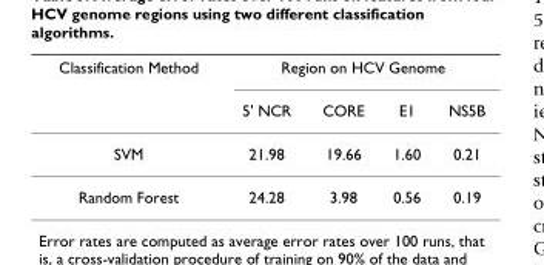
<table><thead><tr><td rowspan="2">Classification Method</td><td colspan="4">Region on HCV Genome</td></tr><tr><td>5&#x27; NCR</td><td>CORE</td><td>E1</td><td>NS5B</td></tr></thead><tbody><tr><td>SVM</td><td>21.98</td><td>19.66</td><td>1.60</td><td>0.21</td></tr><tr><td>Random Forest</td><td>24.28</td><td>3.98</td><td>0.56</td><td>0.19</td></tr></tbody></table>